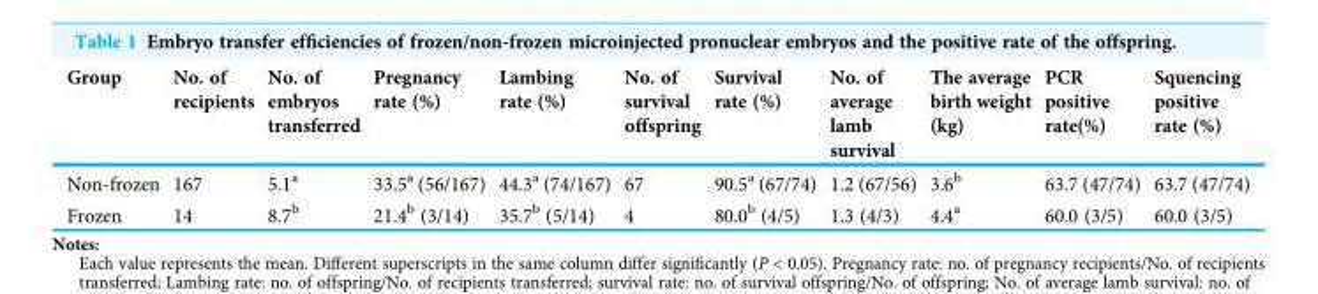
<table><thead><tr><td>Group</td><td>No. of recipients</td><td>No. of embryos transferred</td><td>Pregnancy rate (%)</td><td>Lambing rate (%)</td><td>No. of survival offspring</td><td>Survival rate (%)</td><td>No. of average lamb survival</td><td>The average birth weight (kg)</td><td>PCR positive rate(%)</td><td>Squencing positive rate (%)</td></tr></thead><tbody><tr><td>Non-frozen</td><td>167</td><td>5.1<sup>a</sup></td><td>33.5<sup>a</sup> (56/167)</td><td>44.3<sup>a</sup> (74/167)</td><td>67</td><td>90.5<sup>a</sup> (67/74)</td><td>1.2 (67/56)</td><td>3.6<sup>b</sup></td><td>63.7 (47/74)</td><td>63.7 (47/74)</td></tr><tr><td>Frozen</td><td>14</td><td>8.7<sup>b</sup></td><td>21.4<sup>b</sup> (3/14)</td><td>35.7<sup>b</sup> (5/14)</td><td>4</td><td>80.0<sup>b</sup> (4/5)</td><td>1.3 (4/3)</td><td>4.4<sup>a</sup></td><td>60.0 (3/5)</td><td>60.0 (3/5)</td></tr></tbody></table>